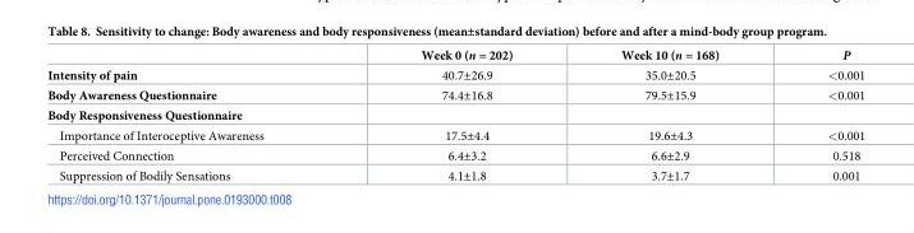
<table><thead><tr><td></td><td>Week 0 (n = 202)</td><td>Week 10 (n = 168)</td><td>P</td></tr></thead><tbody><tr><td>Intensity of pain</td><td>40.7±26.9</td><td>35.0±20.5</td><td>&lt;0.001</td></tr><tr><td>Body Awareness Questionnaire</td><td>74.4±16.8</td><td>79.5±15.9</td><td>&lt;0.001</td></tr><tr><td colspan="4">Body Responsiveness Questionnaire</td></tr><tr><td>Importance of Interoceptive Awareness</td><td>17.5±4.4</td><td>19.6±4.3</td><td>&lt;0.001</td></tr><tr><td>Perceived Connection</td><td>6.4±3.2</td><td>6.6±2.9</td><td>0.518</td></tr><tr><td>Suppression of Bodily Sensations</td><td>4.1±1.8</td><td>3.7±1.7</td><td>0.001</td></tr></tbody></table>